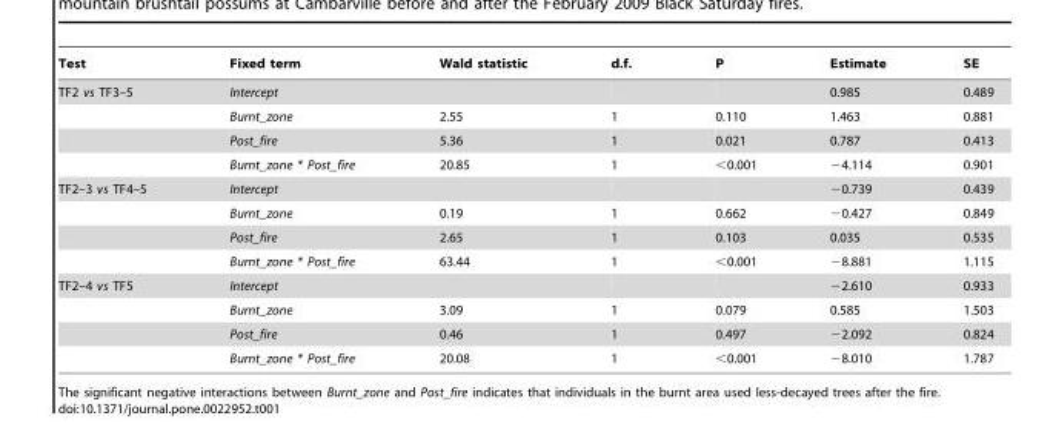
<table><thead><tr><td>Test</td><td>Fixed term</td><td>Wald statistic</td><td>d.f.</td><td>P</td><td>Estimate</td><td>SE</td></tr></thead><tbody><tr><td rowspan="4">TF2 vs TF3–5</td><td>Intercept</td><td></td><td></td><td></td><td>0.985</td><td>0.489</td></tr><tr><td>Burnt_zone</td><td>2.55</td><td>1</td><td>0.110</td><td>1.463</td><td>0.881</td></tr><tr><td>Post_fire</td><td>5.36</td><td>1</td><td>0.021</td><td>0.787</td><td>0.413</td></tr><tr><td>Burnt_zone * Post_fire</td><td>20.85</td><td>1</td><td>&lt;0.001</td><td>−4.114</td><td>0.901</td></tr><tr><td rowspan="4">TF2–3 vs TF4–5</td><td>Intercept</td><td></td><td></td><td></td><td>−0.739</td><td>0.439</td></tr><tr><td>Burnt_zone</td><td>0.19</td><td>1</td><td>0.662</td><td>−0.427</td><td>0.849</td></tr><tr><td>Post_fire</td><td>2.65</td><td>1</td><td>0.103</td><td>0.035</td><td>0.535</td></tr><tr><td>Burnt_zone * Post_fire</td><td>63.44</td><td>1</td><td>&lt;0.001</td><td>−8.881</td><td>1.115</td></tr><tr><td rowspan="4">TF2–4 vs TF5</td><td>Intercept</td><td></td><td></td><td></td><td>−2.610</td><td>0.933</td></tr><tr><td>Burnt_zone</td><td>3.09</td><td>1</td><td>0.079</td><td>0.585</td><td>1.503</td></tr><tr><td>Post_fire</td><td>0.46</td><td>1</td><td>0.497</td><td>−2.092</td><td>0.824</td></tr><tr><td>Burnt_zone * Post_fire</td><td>20.08</td><td>1</td><td>&lt;0.001</td><td>−8.010</td><td>1.787</td></tr></tbody></table>